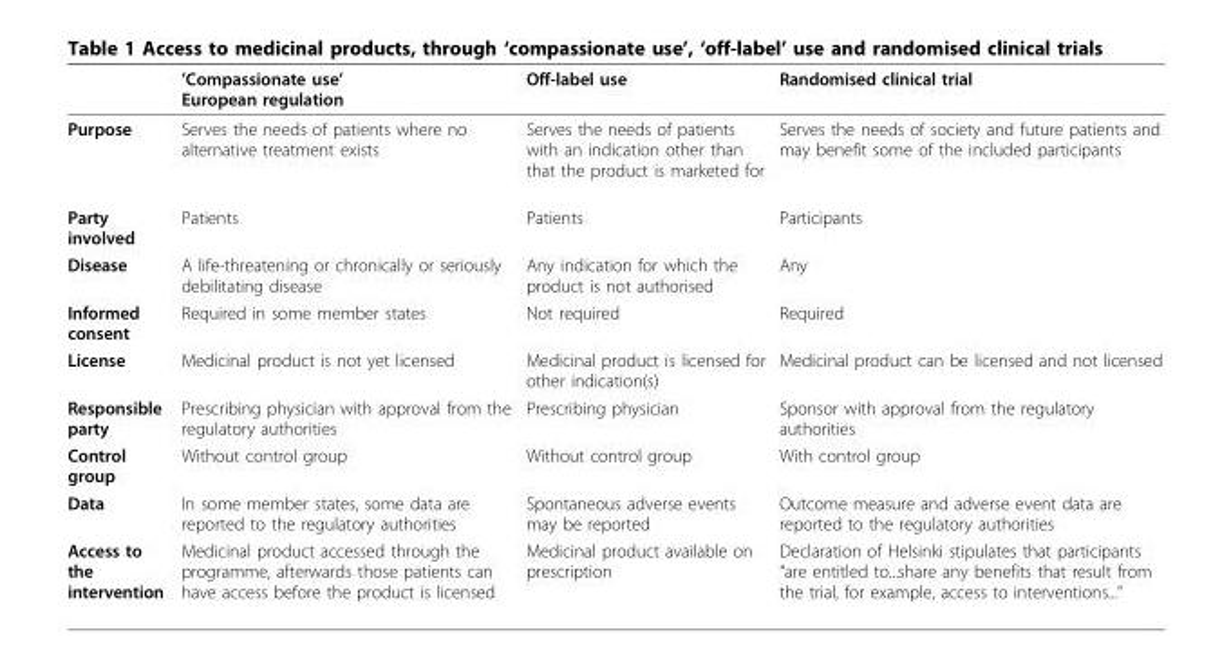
<table><thead><tr><td></td><td>’Compassionate use’ European regulation</td><td>Off-label use</td><td>Randomised clinical trial</td></tr></thead><tbody><tr><td>Purpose</td><td>Serves the needs of patients where no alternative treatment exists</td><td>Serves the needs of patients with an indication other than that the product is marketed for</td><td>Serves the needs of society and future patients and may benefit some of the included participants</td></tr><tr><td>Party involved</td><td>Patients</td><td>Patients</td><td>Participants</td></tr><tr><td>Disease</td><td>A life-threatening or chronically or seriously debilitating disease</td><td>Any indication for which the product is not authorised</td><td>Any</td></tr><tr><td>Informed consent</td><td>Required in some member states</td><td>Not required</td><td>Required</td></tr><tr><td>License</td><td>Medicinal product is not yet licensed</td><td>Medicinal product is licensed for other indication(s)</td><td>Medicinal product can be licensed and not licensed</td></tr><tr><td>Responsible party</td><td>Prescribing physician with approval from the regulatory authorities</td><td>Prescribing physician</td><td>Sponsor with approval from the regulatory authorities</td></tr><tr><td>Control group</td><td>Without control group</td><td>Without control group</td><td>With control group</td></tr><tr><td>Data</td><td>In some member states, some data are reported to the regulatory authorities</td><td>Spontaneous adverse events may be reported</td><td>Outcome measure and adverse event data are reported to the regulatory authorities</td></tr><tr><td>Access to the intervention</td><td>Medicinal product accessed through the programme, afterwards those patients can have access before the product is licensed</td><td>Medicinal product available on prescription</td><td>Declaration of Helsinki stipulates that participants “are entitled to...share any benefits that result from the trial, for example, access to interventions...”</td></tr></tbody></table>